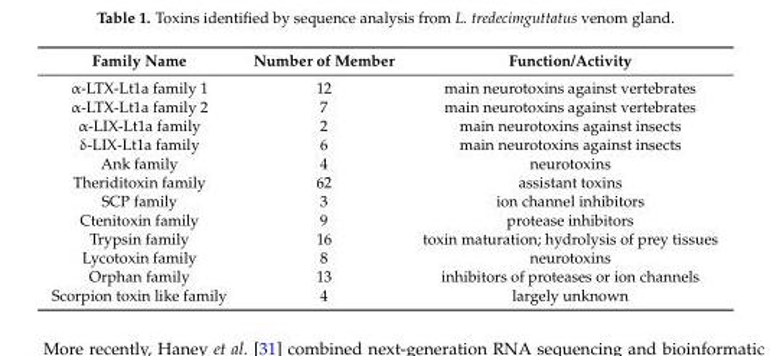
<table><thead><tr><td>Family Name</td><td>Number of Member</td><td>Function/Activity</td></tr></thead><tbody><tr><td>α-LTX-Lt1a family 1</td><td>12</td><td>main neurotoxins against vertebrates</td></tr><tr><td>α-LTX-Lt1a family 2</td><td>7</td><td>main neurotoxins against vertebrates</td></tr><tr><td>α-LIX-Lt1a family</td><td>2</td><td>main neurotoxins against insects</td></tr><tr><td>δ-LIX-Lt1a family</td><td>6</td><td>main neurotoxins against insects</td></tr><tr><td>Ank family</td><td>4</td><td>neurotoxins</td></tr><tr><td>Theriditoxin family</td><td>62</td><td>assistant toxins</td></tr><tr><td>SCP family</td><td>3</td><td>ion channel inhibitors</td></tr><tr><td>Ctenitoxin family</td><td>9</td><td>protease inhibitors</td></tr><tr><td>Trypsin family</td><td>16</td><td>toxin maturation; hydrolysis of prey tissues</td></tr><tr><td>Lycotoxin family</td><td>8</td><td>neurotoxins</td></tr><tr><td>Orphan family</td><td>13</td><td>inhibitors of proteases or ion channels</td></tr><tr><td>Scorpion toxin like family</td><td>4</td><td>largely unknown</td></tr></tbody></table>